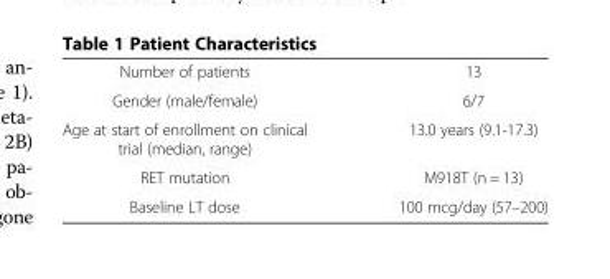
<table><tbody><tr><td>Number of patients</td><td>13</td></tr><tr><td>Gender (male/female)</td><td>6/7</td></tr><tr><td>Age at start of enrollment on clinical trial (median, range)</td><td>13.0 years (9.1-17.3)</td></tr><tr><td>RET mutation</td><td>M918T (n = 13)</td></tr><tr><td>Baseline LT dose</td><td>100 mcg/day (57–200)</td></tr></tbody></table>